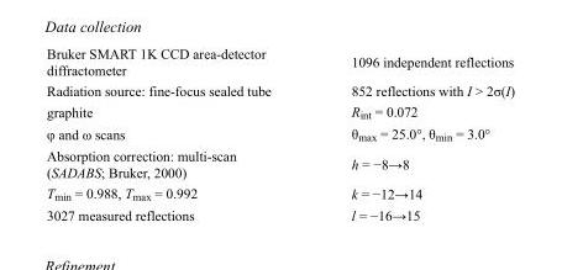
<table><tbody><tr><td>Bruker SMART 1K CCD area-detector diffractometer</td><td>1096 independent reflections</td></tr><tr><td>Radiation source: fine-focus sealed tube</td><td>852 reflections with I &gt; 2σ(I)</td></tr><tr><td>graphite</td><td>R<sub>int</sub> = 0.072</td></tr><tr><td>φ and ω scans</td><td>θ<sub>max</sub> = 25.0°, θ<sub>min</sub> = 3.0°</td></tr><tr><td>Absorption correction: multi-scan (SADABS; Bruker, 2000)</td><td>h = −8→8</td></tr><tr><td>T<sub>min</sub> = 0.988, T<sub>max</sub> = 0.992</td><td>k = −12→14</td></tr><tr><td>3027 measured reflections</td><td>l = −16→15</td></tr></tbody></table>